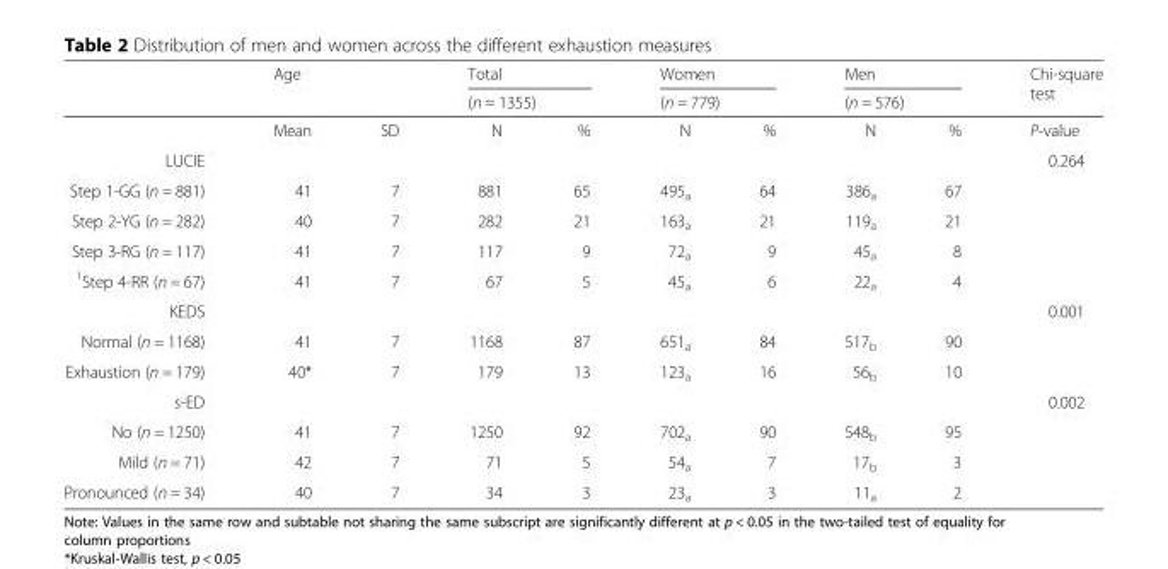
<table><thead><tr><td rowspan="3"></td><td rowspan="2" colspan="2">Age</td><td rowspan="2" colspan="2">Total (n = 1355)</td><td rowspan="2" colspan="2">Women (n = 779)</td><td rowspan="2" colspan="2">Men (n = 576)</td><td rowspan="3">Chi-square test P-value</td></tr><tr></tr><tr><td>Mean</td><td>SD</td><td>N</td><td>%</td><td>N</td><td>%</td><td>N</td><td>%</td></tr></thead><tbody><tr><td>LUCIE</td><td></td><td></td><td></td><td></td><td></td><td></td><td></td><td></td><td>0.264</td></tr><tr><td>Step 1-GG (n = 881)</td><td>41</td><td>7</td><td>881</td><td>65</td><td>495<sub>a</sub></td><td>64</td><td>386<sub>a</sub></td><td>67</td><td></td></tr><tr><td>Step 2-YG (n = 282)</td><td>40</td><td>7</td><td>282</td><td>21</td><td>163<sub>a</sub></td><td>21</td><td>119<sub>a</sub></td><td>21</td><td></td></tr><tr><td>Step 3-RG (n = 117)</td><td>41</td><td>7</td><td>117</td><td>9</td><td>72<sub>a</sub></td><td>9</td><td>45<sub>a</sub></td><td>8</td><td></td></tr><tr><td><sup>1</sup>Step 4-RR (n = 67)</td><td>41</td><td>7</td><td>67</td><td>5</td><td>45<sub>a</sub></td><td>6</td><td>22<sub>a</sub></td><td>4</td><td></td></tr><tr><td>KEDS</td><td></td><td></td><td></td><td></td><td></td><td></td><td></td><td></td><td>0.001</td></tr><tr><td>Normal (n = 1168)</td><td>41</td><td>7</td><td>1168</td><td>87</td><td>651<sub>a</sub></td><td>84</td><td>517<sub>b</sub></td><td>90</td><td></td></tr><tr><td>Exhaustion (n = 179)</td><td>40*</td><td>7</td><td>179</td><td>13</td><td>123<sub>a</sub></td><td>16</td><td>56<sub>b</sub></td><td>10</td><td></td></tr><tr><td>s-ED</td><td></td><td></td><td></td><td></td><td></td><td></td><td></td><td></td><td>0.002</td></tr><tr><td>No (n = 1250)</td><td>41</td><td>7</td><td>1250</td><td>92</td><td>702<sub>a</sub></td><td>90</td><td>548<sub>b</sub></td><td>95</td><td></td></tr><tr><td>Mild (n = 71)</td><td>42</td><td>7</td><td>71</td><td>5</td><td>54<sub>a</sub></td><td>7</td><td>17<sub>b</sub></td><td>3</td><td></td></tr><tr><td>Pronounced (n = 34)</td><td>40</td><td>7</td><td>34</td><td>3</td><td>23<sub>a</sub></td><td>3</td><td>11<sub>a</sub></td><td>2</td><td></td></tr></tbody></table>